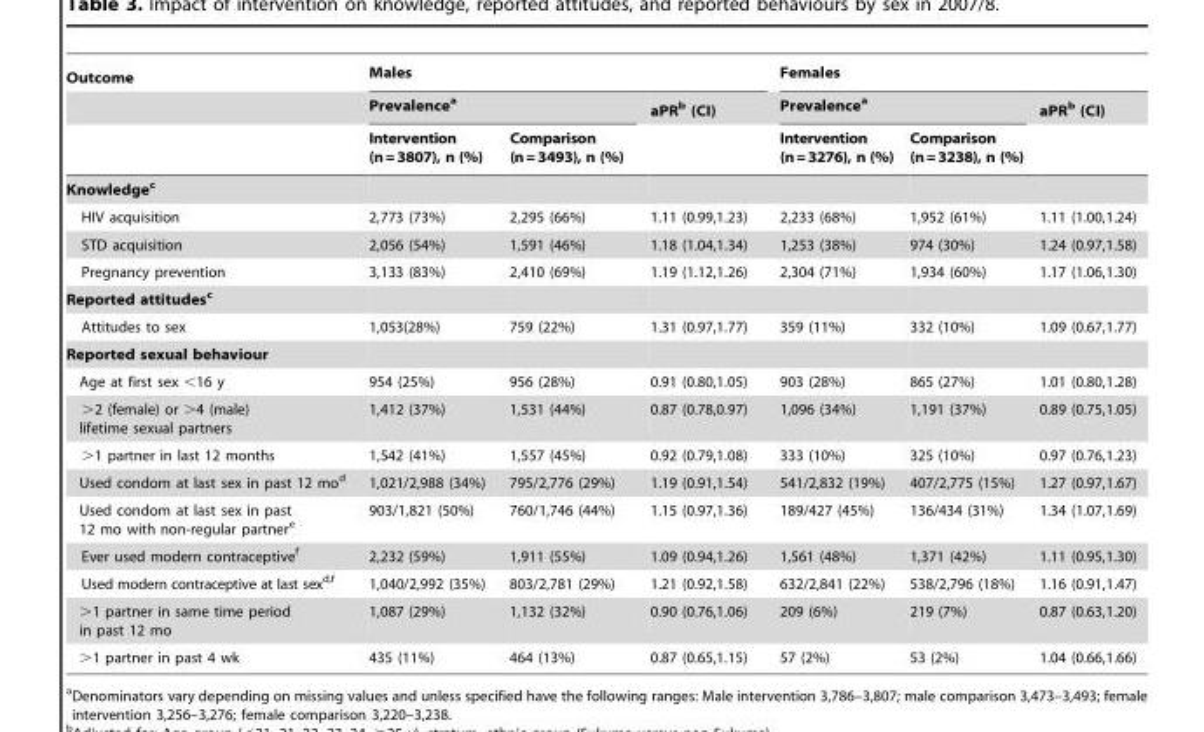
<table><thead><tr><td rowspan="3">Outcome</td><td colspan="3">Males</td><td colspan="3">Females</td></tr><tr><td colspan="2">Prevalence<sup>a</sup></td><td rowspan="2">aPR<sup>b</sup> (CI)</td><td colspan="2">Prevalence<sup>a</sup></td><td rowspan="2">aPR<sup>b</sup> (CI)</td></tr><tr><td>Intervention (n=3807), n (%)</td><td>Comparison (n=3493), n (%)</td><td>Intervention (n=3276), n (%)</td><td>Comparison (n=3238), n (%)</td></tr></thead><tbody><tr><td colspan="7">Knowledgec</td></tr><tr><td>HIV acquisition</td><td>2,773 (73%)</td><td>2,295 (66%)</td><td>1.11 (0.99,1.23)</td><td>2,233 (68%)</td><td>1,952 (61%)</td><td>1.11 (1.00,1.24)</td></tr><tr><td>STD acquisition</td><td>2,056 (54%)</td><td>1,591 (46%)</td><td>1.18 (1.04,1.34)</td><td>1,253 (38%)</td><td>974 (30%)</td><td>1.24 (0.97,1.58)</td></tr><tr><td>Pregnancy prevention</td><td>3,133 (83%)</td><td>2,410 (69%)</td><td>1.19 (1.12,1.26)</td><td>2,304 (71%)</td><td>1,934 (60%)</td><td>1.17 (1.06,1.30)</td></tr><tr><td colspan="7">Reported attitudesc</td></tr><tr><td>Attitudes to sex</td><td>1,053(28%)</td><td>759 (22%)</td><td>1.31 (0.97,1.77)</td><td>359 (11%)</td><td>332 (10%)</td><td>1.09 (0.67,1.77)</td></tr><tr><td colspan="7">Reported sexual behaviour</td></tr><tr><td>Age at first sex &lt;16 y</td><td>954 (25%)</td><td>956 (28%)</td><td>0.91 (0.80,1.05)</td><td>903 (28%)</td><td>865 (27%)</td><td>1.01 (0.80,1.28)</td></tr><tr><td>&gt;2 (female) or &gt;4 (male) lifetime sexual partners</td><td>1,412 (37%)</td><td>1,531 (44%)</td><td>0.87 (0.78,0.97)</td><td>1,096 (34%)</td><td>1,191 (37%)</td><td>0.89 (0.75,1.05)</td></tr><tr><td>&gt;1 partner in last 12 months</td><td>1,542 (41%)</td><td>1,557 (45%)</td><td>0.92 (0.79,1.08)</td><td>333 (10%)</td><td>325 (10%)</td><td>0.97 (0.76,1.23)</td></tr><tr><td>Used condom at last sex in past 12 mo<sup>d</sup></td><td>1,021/2,988 (34%)</td><td>795/2,776 (29%)</td><td>1.19 (0.91,1.54)</td><td>541/2,832 (19%)</td><td>407/2,775 (15%)</td><td>1.27 (0.97,1.67)</td></tr><tr><td>Used condom at last sex in past 12 mo with non-regular partner<sup>e</sup></td><td>903/1,821 (50%)</td><td>760/1,746 (44%)</td><td>1.15 (0.97,1.36)</td><td>189/427 (45%)</td><td>136/434 (31%)</td><td>1.34 (1.07,1.69)</td></tr><tr><td>Ever used modern contraceptive<sup>f</sup></td><td>2,232 (59%)</td><td>1,911 (55%)</td><td>1.09 (0.94,1.26)</td><td>1,561 (48%)</td><td>1,371 (42%)</td><td>1.11 (0.95,1.30)</td></tr><tr><td>Used modern contraceptive at last sex<sup>d</sup>,<sup>f</sup></td><td>1,040/2,992 (35%)</td><td>803/2,781 (29%)</td><td>1.21 (0.92,1.58)</td><td>632/2,841 (22%)</td><td>538/2,796 (18%)</td><td>1.16 (0.91,1.47)</td></tr><tr><td>&gt;1 partner in same time period in past 12 mo</td><td>1,087 (29%)</td><td>1,132 (32%)</td><td>0.90 (0.76,1.06)</td><td>209 (6%)</td><td>219 (7%)</td><td>0.87 (0.63,1.20)</td></tr><tr><td>&gt;1 partner in past 4 wk</td><td>435 (11%)</td><td>464 (13%)</td><td>0.87 (0.65,1.15)</td><td>57 (2%)</td><td>53 (2%)</td><td>1.04 (0.66,1.66)</td></tr></tbody></table>